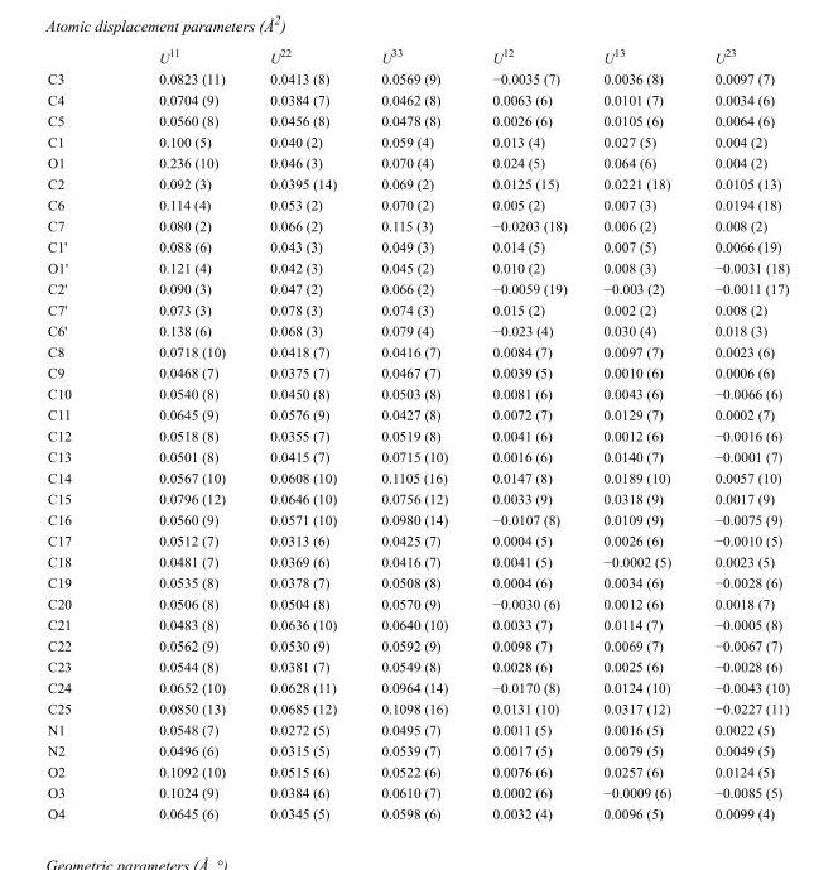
<table><thead><tr><td></td><td>U<sup>11</sup></td><td>U<sup>22</sup></td><td>U<sup>33</sup></td><td>U<sup>12</sup></td><td>U<sup>13</sup></td><td>U<sup>23</sup></td></tr></thead><tbody><tr><td>C3</td><td>0.0823 (11)</td><td>0.0413 (8)</td><td>0.0569 (9)</td><td>−0.0035 (7)</td><td>0.0036 (8)</td><td>0.0097 (7)</td></tr><tr><td>C4</td><td>0.0704 (9)</td><td>0.0384 (7)</td><td>0.0462 (8)</td><td>0.0063 (6)</td><td>0.0101 (7)</td><td>0.0034 (6)</td></tr><tr><td>C5</td><td>0.0560 (8)</td><td>0.0456 (8)</td><td>0.0478 (8)</td><td>0.0026 (6)</td><td>0.0105 (6)</td><td>0.0064 (6)</td></tr><tr><td>C1</td><td>0.100 (5)</td><td>0.040 (2)</td><td>0.059 (4)</td><td>0.013 (4)</td><td>0.027 (5)</td><td>0.004 (2)</td></tr><tr><td>O1</td><td>0.236 (10)</td><td>0.046 (3)</td><td>0.070 (4)</td><td>0.024 (5)</td><td>0.064 (6)</td><td>0.004 (2)</td></tr><tr><td>C2</td><td>0.092 (3)</td><td>0.0395 (14)</td><td>0.069 (2)</td><td>0.0125 (15)</td><td>0.0221 (18)</td><td>0.0105 (13)</td></tr><tr><td>C6</td><td>0.114 (4)</td><td>0.053 (2)</td><td>0.070 (2)</td><td>0.005 (2)</td><td>0.007 (3)</td><td>0.0194 (18)</td></tr><tr><td>C7</td><td>0.080 (2)</td><td>0.066 (2)</td><td>0.115 (3)</td><td>−0.0203 (18)</td><td>0.006 (2)</td><td>0.008 (2)</td></tr><tr><td>C1&#x27;</td><td>0.088 (6)</td><td>0.043 (3)</td><td>0.049 (3)</td><td>0.014 (5)</td><td>0.007 (5)</td><td>0.0066 (19)</td></tr><tr><td>O1&#x27;</td><td>0.121 (4)</td><td>0.042 (3)</td><td>0.045 (2)</td><td>0.010 (2)</td><td>0.008 (3)</td><td>−0.0031 (18)</td></tr><tr><td>C2&#x27;</td><td>0.090 (3)</td><td>0.047 (2)</td><td>0.066 (2)</td><td>−0.0059 (19)</td><td>−0.003 (2)</td><td>−0.0011 (17)</td></tr><tr><td>C7&#x27;</td><td>0.073 (3)</td><td>0.078 (3)</td><td>0.074 (3)</td><td>0.015 (2)</td><td>0.002 (2)</td><td>0.008 (2)</td></tr><tr><td>C6&#x27;</td><td>0.138 (6)</td><td>0.068 (3)</td><td>0.079 (4)</td><td>−0.023 (4)</td><td>0.030 (4)</td><td>0.018 (3)</td></tr><tr><td>C8</td><td>0.0718 (10)</td><td>0.0418 (7)</td><td>0.0416 (7)</td><td>0.0084 (7)</td><td>0.0097 (7)</td><td>0.0023 (6)</td></tr><tr><td>C9</td><td>0.0468 (7)</td><td>0.0375 (7)</td><td>0.0467 (7)</td><td>0.0039 (5)</td><td>0.0010 (6)</td><td>0.0006 (6)</td></tr><tr><td>C10</td><td>0.0540 (8)</td><td>0.0450 (8)</td><td>0.0503 (8)</td><td>0.0081 (6)</td><td>0.0043 (6)</td><td>−0.0066 (6)</td></tr><tr><td>C11</td><td>0.0645 (9)</td><td>0.0576 (9)</td><td>0.0427 (8)</td><td>0.0072 (7)</td><td>0.0129 (7)</td><td>0.0002 (7)</td></tr><tr><td>C12</td><td>0.0518 (8)</td><td>0.0355 (7)</td><td>0.0519 (8)</td><td>0.0041 (6)</td><td>0.0012 (6)</td><td>−0.0016 (6)</td></tr><tr><td>C13</td><td>0.0501 (8)</td><td>0.0415 (7)</td><td>0.0715 (10)</td><td>0.0016 (6)</td><td>0.0140 (7)</td><td>−0.0001 (7)</td></tr><tr><td>C14</td><td>0.0567 (10)</td><td>0.0608 (10)</td><td>0.1105 (16)</td><td>0.0147 (8)</td><td>0.0189 (10)</td><td>0.0057 (10)</td></tr><tr><td>C15</td><td>0.0796 (12)</td><td>0.0646 (10)</td><td>0.0756 (12)</td><td>0.0033 (9)</td><td>0.0318 (9)</td><td>0.0017 (9)</td></tr><tr><td>C16</td><td>0.0560 (9)</td><td>0.0571 (10)</td><td>0.0980 (14)</td><td>−0.0107 (8)</td><td>0.0109 (9)</td><td>−0.0075 (9)</td></tr><tr><td>C17</td><td>0.0512 (7)</td><td>0.0313 (6)</td><td>0.0425 (7)</td><td>0.0004 (5)</td><td>0.0026 (6)</td><td>−0.0010 (5)</td></tr><tr><td>C18</td><td>0.0481 (7)</td><td>0.0369 (6)</td><td>0.0416 (7)</td><td>0.0041 (5)</td><td>−0.0002 (5)</td><td>0.0023 (5)</td></tr><tr><td>C19</td><td>0.0535 (8)</td><td>0.0378 (7)</td><td>0.0508 (8)</td><td>0.0004 (6)</td><td>0.0034 (6)</td><td>−0.0028 (6)</td></tr><tr><td>C20</td><td>0.0506 (8)</td><td>0.0504 (8)</td><td>0.0570 (9)</td><td>−0.0030 (6)</td><td>0.0012 (6)</td><td>0.0018 (7)</td></tr><tr><td>C21</td><td>0.0483 (8)</td><td>0.0636 (10)</td><td>0.0640 (10)</td><td>0.0033 (7)</td><td>0.0114 (7)</td><td>−0.0005 (8)</td></tr><tr><td>C22</td><td>0.0562 (9)</td><td>0.0530 (9)</td><td>0.0592 (9)</td><td>0.0098 (7)</td><td>0.0069 (7)</td><td>−0.0067 (7)</td></tr><tr><td>C23</td><td>0.0544 (8)</td><td>0.0381 (7)</td><td>0.0549 (8)</td><td>0.0028 (6)</td><td>0.0025 (6)</td><td>−0.0028 (6)</td></tr><tr><td>C24</td><td>0.0652 (10)</td><td>0.0628 (11)</td><td>0.0964 (14)</td><td>−0.0170 (8)</td><td>0.0124 (10)</td><td>−0.0043 (10)</td></tr><tr><td>C25</td><td>0.0850 (13)</td><td>0.0685 (12)</td><td>0.1098 (16)</td><td>0.0131 (10)</td><td>0.0317 (12)</td><td>−0.0227 (11)</td></tr><tr><td>N1</td><td>0.0548 (7)</td><td>0.0272 (5)</td><td>0.0495 (7)</td><td>0.0011 (5)</td><td>0.0016 (5)</td><td>0.0022 (5)</td></tr><tr><td>N2</td><td>0.0496 (6)</td><td>0.0315 (5)</td><td>0.0539 (7)</td><td>0.0017 (5)</td><td>0.0079 (5)</td><td>0.0049 (5)</td></tr><tr><td>O2</td><td>0.1092 (10)</td><td>0.0515 (6)</td><td>0.0522 (6)</td><td>0.0076 (6)</td><td>0.0257 (6)</td><td>0.0124 (5)</td></tr><tr><td>O3</td><td>0.1024 (9)</td><td>0.0384 (6)</td><td>0.0610 (7)</td><td>0.0002 (6)</td><td>−0.0009 (6)</td><td>−0.0085 (5)</td></tr><tr><td>O4</td><td>0.0645 (6)</td><td>0.0345 (5)</td><td>0.0598 (6)</td><td>0.0032 (4)</td><td>0.0096 (5)</td><td>0.0099 (4)</td></tr></tbody></table>